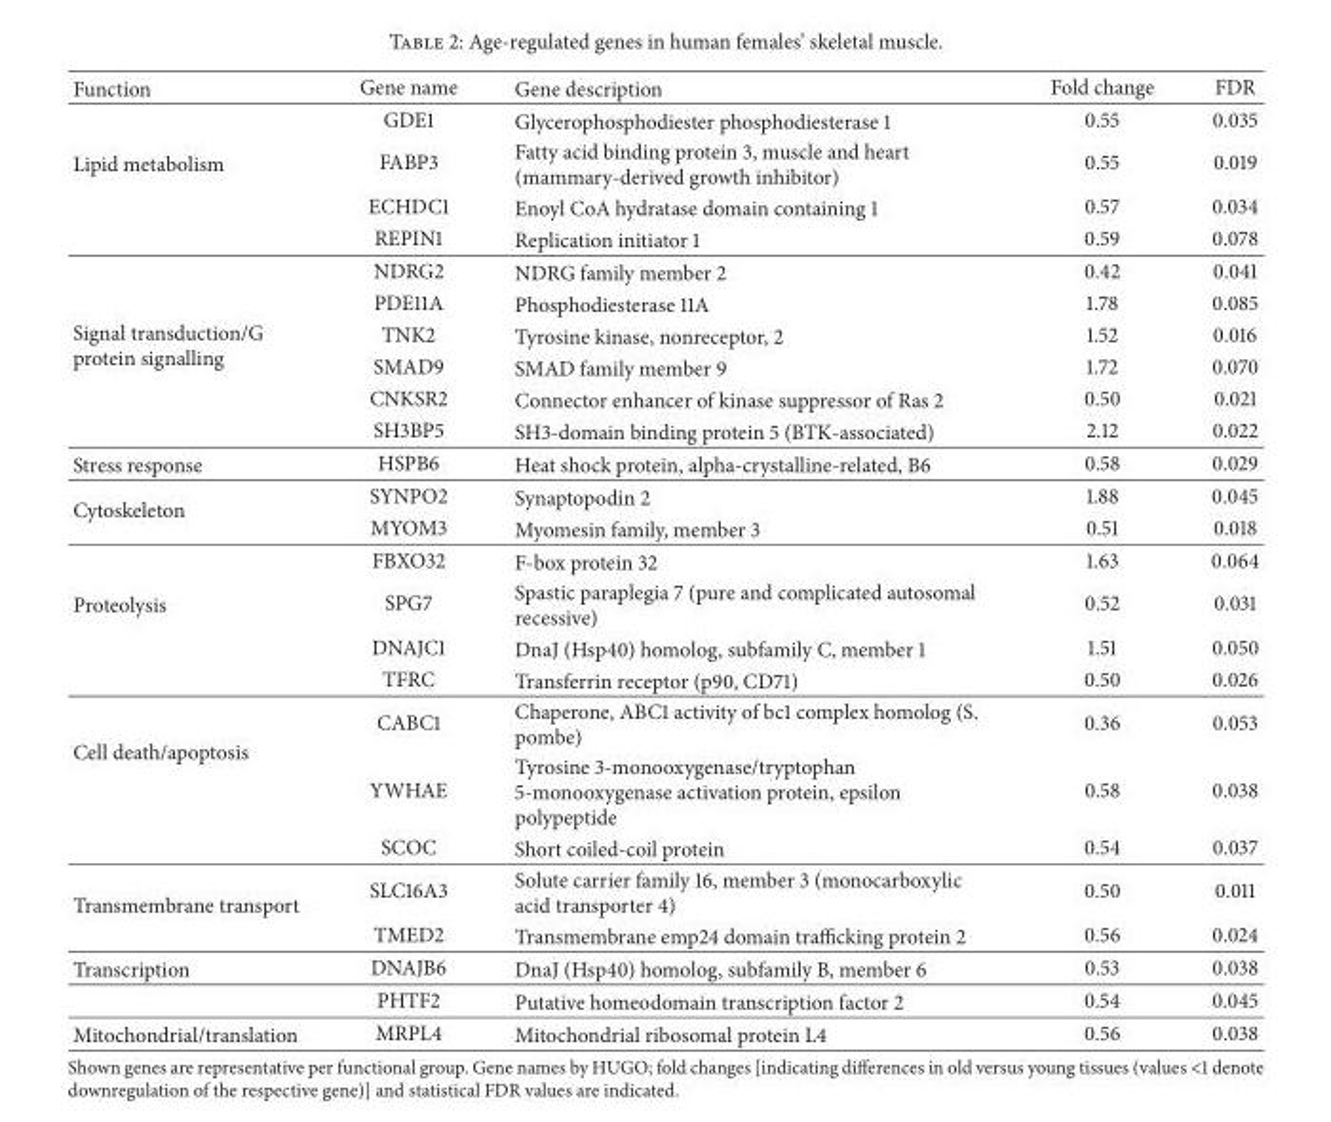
<table><thead><tr><td>Function</td><td>Gene name</td><td>Gene description</td><td>Fold change</td><td>FDR</td></tr></thead><tbody><tr><td rowspan="4">Lipid metabolism</td><td>GDE1</td><td>Glycerophosphodiester phosphodiesterase 1</td><td>0.55</td><td>0.035</td></tr><tr><td>FABP3</td><td>Fatty acid binding protein 3, muscle and heart (mammary-derived growth inhibitor)</td><td>0.55</td><td>0.019</td></tr><tr><td>ECHDC1</td><td>Enoyl CoA hydratase domain containing 1</td><td>0.57</td><td>0.034</td></tr><tr><td>REPIN1</td><td>Replication initiator 1</td><td>0.59</td><td>0.078</td></tr><tr><td rowspan="6">Signal transduction/G protein signalling</td><td>NDRG2</td><td>NDRG family member 2</td><td>0.42</td><td>0.041</td></tr><tr><td>PDE11A</td><td>Phosphodiesterase 11A</td><td>1.78</td><td>0.085</td></tr><tr><td>TNK2</td><td>Tyrosine kinase, nonreceptor, 2</td><td>1.52</td><td>0.016</td></tr><tr><td>SMAD9</td><td>SMAD family member 9</td><td>1.72</td><td>0.070</td></tr><tr><td>CNKSR2</td><td>Connector enhancer of kinase suppressor of Ras 2</td><td>0.50</td><td>0.021</td></tr><tr><td>SH3BP5</td><td>SH3-domain binding protein 5 (BTK-associated)</td><td>2.12</td><td>0.022</td></tr><tr><td>Stress response</td><td>HSPB6</td><td>Heat shock protein, alpha-crystalline-related, B6</td><td>0.58</td><td>0.029</td></tr><tr><td rowspan="2">Cytoskeleton</td><td>SYNPO2</td><td>Synaptopodin 2</td><td>1.88</td><td>0.045</td></tr><tr><td>MYOM3</td><td>Myomesin family, member 3</td><td>0.51</td><td>0.018</td></tr><tr><td rowspan="4">Proteolysis</td><td>FBXO32</td><td>F-box protein 32</td><td>1.63</td><td>0.064</td></tr><tr><td>SPG7</td><td>Spastic paraplegia 7 (pure and complicated autosomal recessive)</td><td>0.52</td><td>0.031</td></tr><tr><td>DNAJC1</td><td>DnaJ (Hsp40) homolog, subfamily C, member 1</td><td>1.51</td><td>0.050</td></tr><tr><td>TFRC</td><td>Transferrin receptor (p90, CD71)</td><td>0.50</td><td>0.026</td></tr><tr><td rowspan="3">Cell death/apoptosis</td><td>CABC1</td><td>Chaperone, ABC1 activity of bc1 complex homolog (S. pombe)</td><td>0.36</td><td>0.053</td></tr><tr><td>YWHAE</td><td>Tyrosine 3-monooxygenase/tryptophan 5-monooxygenase activation protein, epsilon polypeptide</td><td>0.58</td><td>0.038</td></tr><tr><td>SCOC</td><td>Short coiled-coil protein</td><td>0.54</td><td>0.037</td></tr><tr><td rowspan="2">Transmembrane transport</td><td>SLC16A3</td><td>Solute carrier family 16, member 3 (monocarboxylic acid transporter 4)</td><td>0.50</td><td>0.011</td></tr><tr><td>TMED2</td><td>Transmembrane emp24 domain trafficking protein 2</td><td>0.56</td><td>0.024</td></tr><tr><td rowspan="2">Transcription</td><td>DNAJB6</td><td>DnaJ (Hsp40) homolog, subfamily B, member 6</td><td>0.53</td><td>0.038</td></tr><tr><td>PHTF2</td><td>Putative homeodomain transcription factor 2</td><td>0.54</td><td>0.045</td></tr><tr><td>Mitochondrial/translation</td><td>MRPL4</td><td>Mitochondrial ribosomal protein L4</td><td>0.56</td><td>0.038</td></tr></tbody></table>